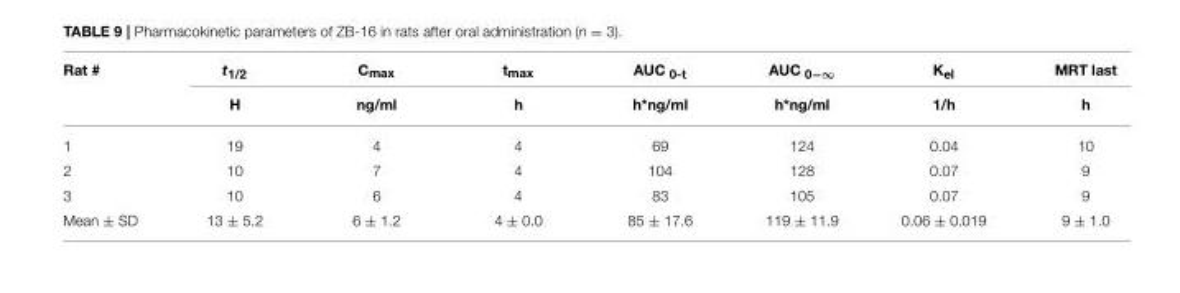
<table><thead><tr><td rowspan="2">Rat #</td><td rowspan="2">t1/2 H</td><td rowspan="2">C<sub>max</sub> ng/ml</td><td rowspan="2">tmax h</td><td rowspan="2">AUC <sub>0-t</sub> h*ng/ml</td><td rowspan="2">AUC <sub>0−∞</sub> h*ng/ml</td><td rowspan="2">K<sub>el</sub> 1/h</td><td rowspan="2">MRT last h</td></tr><tr></tr></thead><tbody><tr><td>1</td><td>19</td><td>4</td><td>4</td><td>69</td><td>124</td><td>0.04</td><td>10</td></tr><tr><td>2</td><td>10</td><td>7</td><td>4</td><td>104</td><td>128</td><td>0.07</td><td>9</td></tr><tr><td>3</td><td>10</td><td>6</td><td>4</td><td>83</td><td>105</td><td>0.07</td><td>9</td></tr><tr><td>Mean ± SD</td><td>13 ± 5.2</td><td>6 ± 1.2</td><td>4 ± 0.0</td><td>85 ± 17.6</td><td>119 ± 11.9</td><td>0.06 ± 0.019</td><td>9 ± 1.0</td></tr></tbody></table>